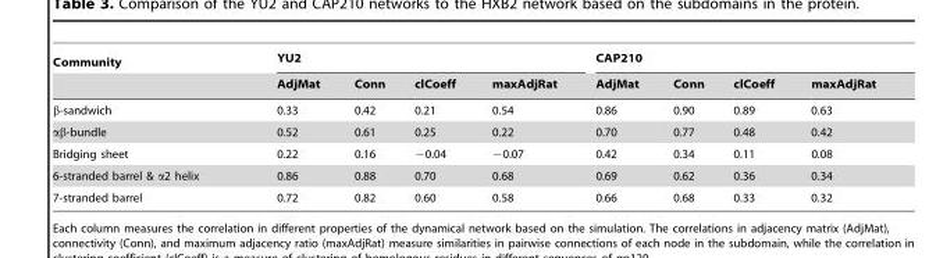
<table><thead><tr><td rowspan="2">Community</td><td colspan="4">YU2</td><td colspan="4">CAP210</td></tr><tr><td>AdjMat</td><td>Conn</td><td>clCoeff</td><td>maxAdjRat</td><td>AdjMat</td><td>Conn</td><td>clCoeff</td><td>maxAdjRat</td></tr></thead><tbody><tr><td>β-sandwich</td><td>0.33</td><td>0.42</td><td>0.21</td><td>0.54</td><td>0.86</td><td>0.90</td><td>0.89</td><td>0.63</td></tr><tr><td>αβ-bundle</td><td>0.52</td><td>0.61</td><td>0.25</td><td>0.22</td><td>0.70</td><td>0.77</td><td>0.48</td><td>0.42</td></tr><tr><td>Bridging sheet</td><td>0.22</td><td>0.16</td><td>−0.04</td><td>−0.07</td><td>0.42</td><td>0.34</td><td>0.11</td><td>0.08</td></tr><tr><td>6-stranded barrel &amp; α2 helix</td><td>0.86</td><td>0.88</td><td>0.70</td><td>0.68</td><td>0.69</td><td>0.62</td><td>0.36</td><td>0.34</td></tr><tr><td>7-stranded barrel</td><td>0.72</td><td>0.82</td><td>0.60</td><td>0.58</td><td>0.66</td><td>0.68</td><td>0.33</td><td>0.32</td></tr></tbody></table>